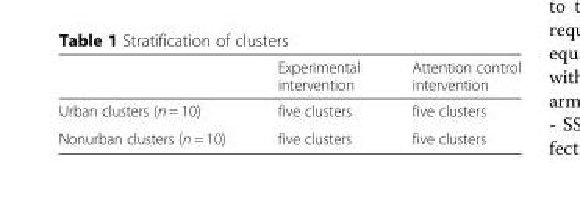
<table><thead><tr><td></td><td>Experimental intervention</td><td>Attention control intervention</td></tr></thead><tbody><tr><td>Urban clusters (n = 10)</td><td>five clusters</td><td>five clusters</td></tr><tr><td>Nonurban clusters (n = 10)</td><td>five clusters</td><td>five clusters</td></tr></tbody></table>